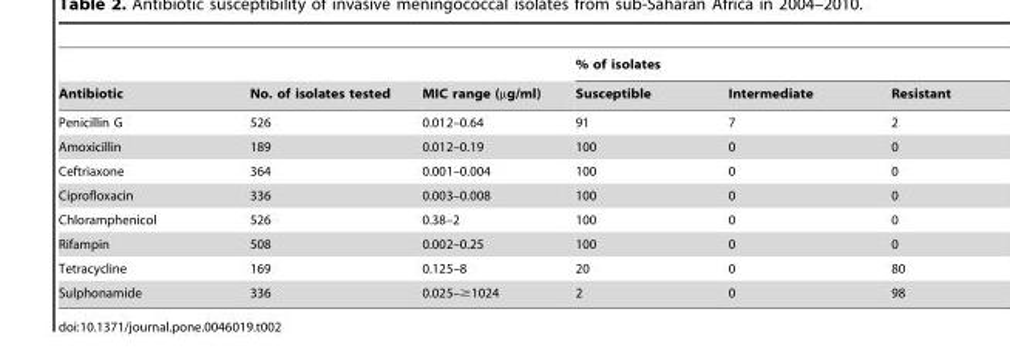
<table><thead><tr><td rowspan="2">Antibiotic</td><td rowspan="2">No. of isolates tested</td><td rowspan="2">MIC range (µg/ml)</td><td colspan="3">% of isolates</td></tr><tr><td>Susceptible</td><td>Intermediate</td><td>Resistant</td></tr></thead><tbody><tr><td>Penicillin G</td><td>526</td><td>0.012–0.64</td><td>91</td><td>7</td><td>2</td></tr><tr><td>Amoxicillin</td><td>189</td><td>0.012–0.19</td><td>100</td><td>0</td><td>0</td></tr><tr><td>Ceftriaxone</td><td>364</td><td>0.001–0.004</td><td>100</td><td>0</td><td>0</td></tr><tr><td>Ciprofloxacin</td><td>336</td><td>0.003–0.008</td><td>100</td><td>0</td><td>0</td></tr><tr><td>Chloramphenicol</td><td>526</td><td>0.38–2</td><td>100</td><td>0</td><td>0</td></tr><tr><td>Rifampin</td><td>508</td><td>0.002–0.25</td><td>100</td><td>0</td><td>0</td></tr><tr><td>Tetracycline</td><td>169</td><td>0.125–8</td><td>20</td><td>0</td><td>80</td></tr><tr><td>Sulphonamide</td><td>336</td><td>0.025–≥1024</td><td>2</td><td>0</td><td>98</td></tr></tbody></table>